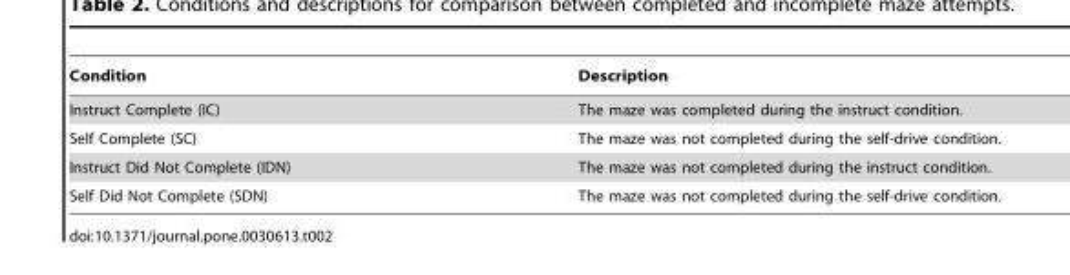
<table><thead><tr><td>Condition</td><td>Description</td></tr></thead><tbody><tr><td>Instruct Complete (IC)</td><td>The maze was completed during the instruct condition.</td></tr><tr><td>Self Complete (SC)</td><td>The maze was not completed during the self-drive condition.</td></tr><tr><td>Instruct Did Not Complete (IDN)</td><td>The maze was not completed during the instruct condition.</td></tr><tr><td>Self Did Not Complete (SDN)</td><td>The maze was not completed during the self-drive condition.</td></tr></tbody></table>